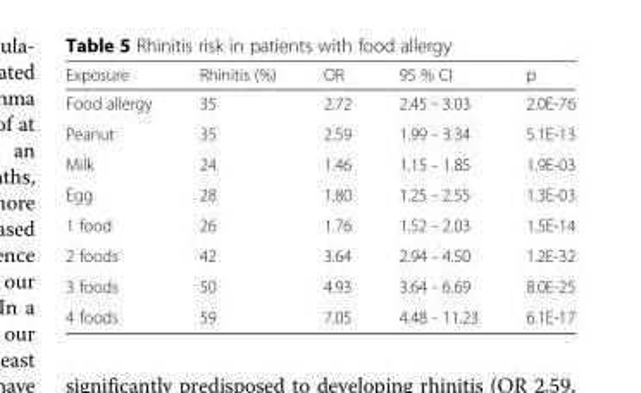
<table><thead><tr><td>Exposure</td><td>Rhinitis (%)</td><td>OR</td><td>95 % CI</td><td>p</td></tr></thead><tbody><tr><td>Food allergy</td><td>35</td><td>2.72</td><td>2.45 - 3.03</td><td>2.0E-76</td></tr><tr><td>Peanut</td><td>35</td><td>2.59</td><td>1.99 - 3.34</td><td>5.1E-13</td></tr><tr><td>Milk</td><td>24</td><td>1.46</td><td>1.15 - 1.85</td><td>1.9E-03</td></tr><tr><td>Egg</td><td>28</td><td>1.80</td><td>1.25 - 2.55</td><td>1.3E-03</td></tr><tr><td>1 food</td><td>26</td><td>1.76</td><td>1.52 - 2.03</td><td>1.5E-14</td></tr><tr><td>2 foods</td><td>42</td><td>3.64</td><td>2.94 - 4.50</td><td>1.2E-32</td></tr><tr><td>3 foods</td><td>50</td><td>4.93</td><td>3.64 - 6.69</td><td>8.0E-25</td></tr><tr><td>4 foods</td><td>59</td><td>7.05</td><td>4.48 - 11.23</td><td>6.1E-17</td></tr></tbody></table>